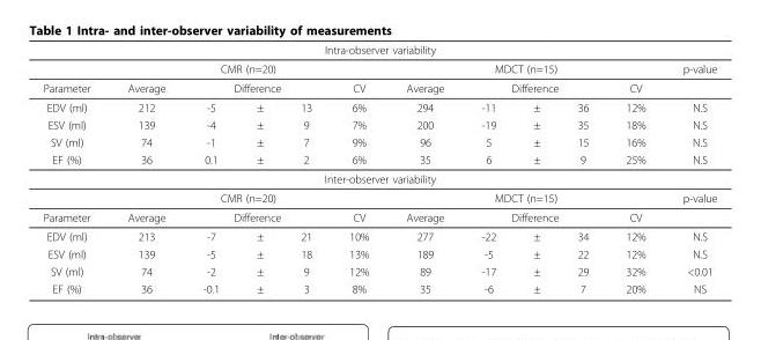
<table><thead><tr><td colspan="12">Intra-observer variability</td></tr><tr><td rowspan="3">Parameter EDV (ml)</td><td colspan="5">CMR (n=20)</td><td colspan="5">MDCT (n=15)</td><td rowspan="3">p-value N.S</td></tr><tr><td rowspan="2">Average 212</td><td colspan="3">Difference</td><td rowspan="2">CV 6%</td><td rowspan="2">Average 294</td><td colspan="3">Difference</td><td rowspan="2">CV 12%</td></tr><tr><td>-5</td><td>±</td><td>13</td><td>-11</td><td>±</td><td>36</td></tr></thead><tbody><tr><td>ESV (ml)</td><td>139</td><td>-4</td><td>±</td><td>9</td><td>7%</td><td>200</td><td>-19</td><td>±</td><td>35</td><td>18%</td><td>N.S</td></tr><tr><td>SV (ml)</td><td>74</td><td>-1</td><td>±</td><td>7</td><td>9%</td><td>96</td><td>5</td><td>±</td><td>15</td><td>16%</td><td>N.S</td></tr><tr><td>EF (%)</td><td>36</td><td>0.1</td><td>±</td><td>2</td><td>6%</td><td>35</td><td>6</td><td>±</td><td>9</td><td>25%</td><td>N.S</td></tr><tr><td colspan="12">Inter-observer variability</td></tr><tr><td></td><td colspan="5">CMR (n=20)</td><td colspan="5">MDCT (n=15)</td><td>p-value</td></tr><tr><td>Parameter</td><td>Average</td><td colspan="3">Difference</td><td>CV</td><td>Average</td><td colspan="3">Difference</td><td>CV</td><td></td></tr><tr><td>EDV (ml)</td><td>213</td><td>-7</td><td>±</td><td>21</td><td>10%</td><td>277</td><td>-22</td><td>±</td><td>34</td><td>12%</td><td>N.S</td></tr><tr><td>ESV (ml)</td><td>139</td><td>-5</td><td>±</td><td>18</td><td>13%</td><td>189</td><td>-5</td><td>±</td><td>22</td><td>12%</td><td>N.S</td></tr><tr><td>SV (ml)</td><td>74</td><td>-2</td><td>±</td><td>9</td><td>12%</td><td>89</td><td>-17</td><td>±</td><td>29</td><td>32%</td><td>&lt;0.01</td></tr><tr><td>EF (%)</td><td>36</td><td>-0.1</td><td>±</td><td>3</td><td>8%</td><td>35</td><td>-6</td><td>±</td><td>7</td><td>20%</td><td>NS</td></tr></tbody></table>